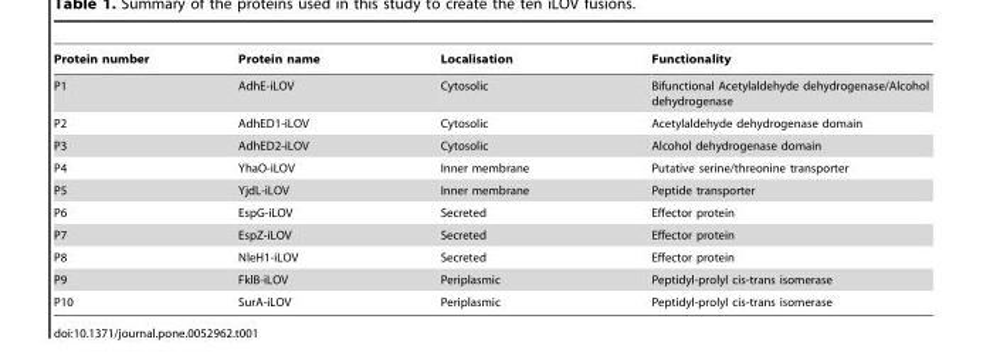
<table><thead><tr><td>Protein number</td><td>Protein name</td><td>Localisation</td><td>Functionality</td></tr></thead><tbody><tr><td>P1</td><td>AdhE-iLOV</td><td>Cytosolic</td><td>Bifunctional Acetylaldehyde dehydrogenase/Alcohol dehydrogenase</td></tr><tr><td>P2</td><td>AdhED1-iLOV</td><td>Cytosolic</td><td>Acetylaldehyde dehydrogenase domain</td></tr><tr><td>P3</td><td>AdhED2-iLOV</td><td>Cytosolic</td><td>Alcohol dehydrogenase domain</td></tr><tr><td>P4</td><td>YhaO-iLOV</td><td>Inner membrane</td><td>Putative serine/threonine transporter</td></tr><tr><td>P5</td><td>YjdL-iLOV</td><td>Inner membrane</td><td>Peptide transporter</td></tr><tr><td>P6</td><td>EspG-iLOV</td><td>Secreted</td><td>Effector protein</td></tr><tr><td>P7</td><td>EspZ-iLOV</td><td>Secreted</td><td>Effector protein</td></tr><tr><td>P8</td><td>NleH1-iLOV</td><td>Secreted</td><td>Effector protein</td></tr><tr><td>P9</td><td>FklB-iLOV</td><td>Periplasmic</td><td>Peptidyl-prolyl cis-trans isomerase</td></tr><tr><td>P10</td><td>SurA-iLOV</td><td>Periplasmic</td><td>Peptidyl-prolyl cis-trans isomerase</td></tr></tbody></table>